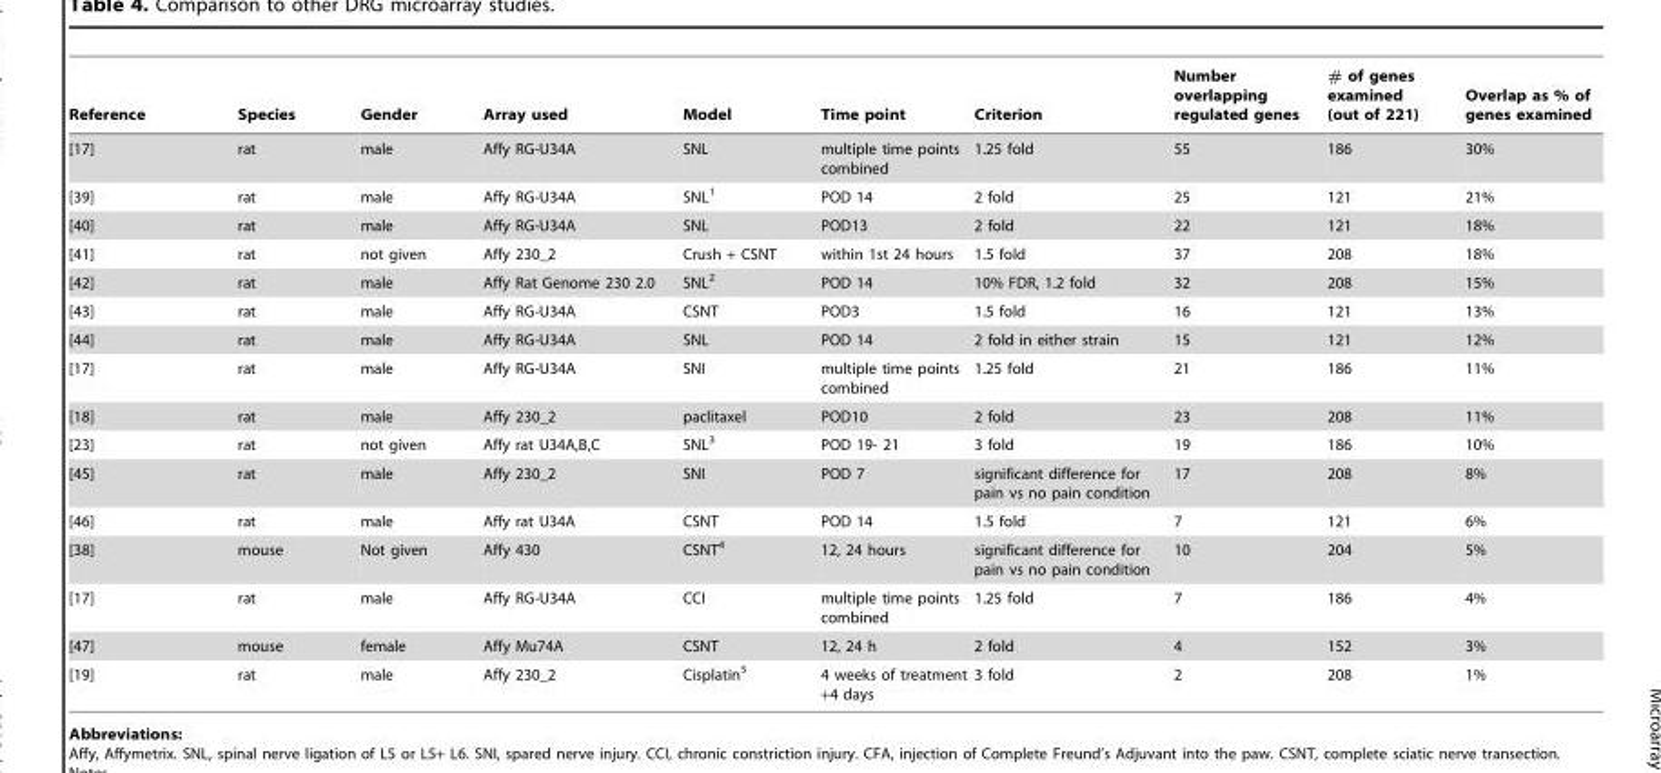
<table><thead><tr><td>Reference</td><td>Species</td><td>Gender</td><td>Array used</td><td>Model</td><td>Time point</td><td>Criterion</td><td>Number overlapping regulated genes</td><td># of genes examined (out of 221)</td><td>Overlap as % of genes examined</td></tr></thead><tbody><tr><td>[17]</td><td>rat</td><td>male</td><td>Affy RG-U34A</td><td>SNL</td><td>multiple time points combined</td><td>1.25 fold</td><td>55</td><td>186</td><td>30%</td></tr><tr><td>[39]</td><td>rat</td><td>male</td><td>Affy RG-U34A</td><td>SNL<sup>1</sup></td><td>POD 14</td><td>2 fold</td><td>25</td><td>121</td><td>21%</td></tr><tr><td>[40]</td><td>rat</td><td>male</td><td>Affy RG-U34A</td><td>SNL</td><td>POD13</td><td>2 fold</td><td>22</td><td>121</td><td>18%</td></tr><tr><td>[41]</td><td>rat</td><td>not given</td><td>Affy 230_2</td><td>Crush + CSNT</td><td>within 1st 24 hours</td><td>1.5 fold</td><td>37</td><td>208</td><td>18%</td></tr><tr><td>[42]</td><td>rat</td><td>male</td><td>Affy Rat Genome 230 2.0</td><td>SNL<sup>2</sup></td><td>POD 14</td><td>10% FDR, 1.2 fold</td><td>32</td><td>208</td><td>15%</td></tr><tr><td>[43]</td><td>rat</td><td>male</td><td>Affy RG-U34A</td><td>CSNT</td><td>POD3</td><td>1.5 fold</td><td>16</td><td>121</td><td>13%</td></tr><tr><td>[44]</td><td>rat</td><td>male</td><td>Affy RG-U34A</td><td>SNL</td><td>POD 14</td><td>2 fold in either strain</td><td>15</td><td>121</td><td>12%</td></tr><tr><td>[17]</td><td>rat</td><td>male</td><td>Affy RG-U34A</td><td>SNI</td><td>multiple time points combined</td><td>1.25 fold</td><td>21</td><td>186</td><td>11%</td></tr><tr><td>[18]</td><td>rat</td><td>male</td><td>Affy 230_2</td><td>paclitaxel</td><td>POD10</td><td>2 fold</td><td>23</td><td>208</td><td>11%</td></tr><tr><td>[23]</td><td>rat</td><td>not given</td><td>Affy rat U34A,B,C</td><td>SNL<sup>3</sup></td><td>POD 19- 21</td><td>3 fold</td><td>19</td><td>186</td><td>10%</td></tr><tr><td>[45]</td><td>rat</td><td>male</td><td>Affy 230_2</td><td>SNI</td><td>POD 7</td><td>significant difference for pain vs no pain condition</td><td>17</td><td>208</td><td>8%</td></tr><tr><td>[46]</td><td>rat</td><td>male</td><td>Affy rat U34A</td><td>CSNT</td><td>POD 14</td><td>1.5 fold</td><td>7</td><td>121</td><td>6%</td></tr><tr><td>[38]</td><td>mouse</td><td>Not given</td><td>Affy 430</td><td>CSNT<sup>4</sup></td><td>12, 24 hours</td><td>significant difference for pain vs no pain condition</td><td>10</td><td>204</td><td>5%</td></tr><tr><td>[17]</td><td>rat</td><td>male</td><td>Affy RG-U34A</td><td>CCI</td><td>multiple time points combined</td><td>1.25 fold</td><td>7</td><td>186</td><td>4%</td></tr><tr><td>[47]</td><td>mouse</td><td>female</td><td>Affy Mu74A</td><td>CSNT</td><td>12, 24 h</td><td>2 fold</td><td>4</td><td>152</td><td>3%</td></tr><tr><td>[19]</td><td>rat</td><td>male</td><td>Affy 230_2</td><td>Cisplatin<sup>5</sup></td><td>4 weeks of treatment +4 days</td><td>3 fold</td><td>2</td><td>208</td><td>1%</td></tr></tbody></table>